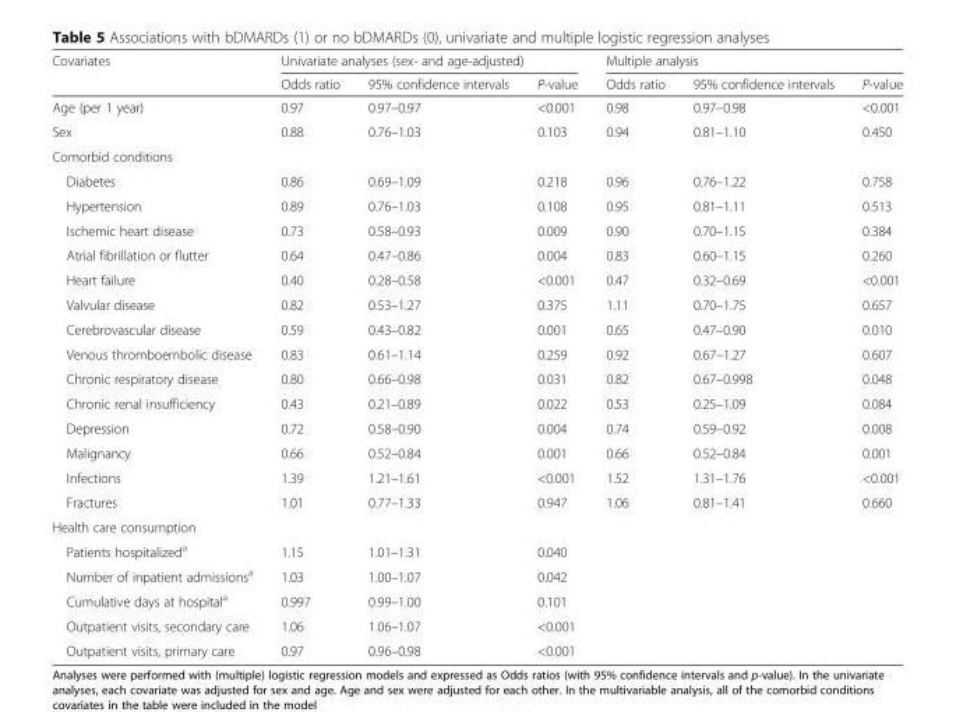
<table><thead><tr><td rowspan="2">Covariates</td><td colspan="3">Univariate analyses (sex- and age-adjusted)</td><td colspan="3">Multiple analysis</td></tr><tr><td>Odds ratio</td><td>95% confidence intervals</td><td>P-value</td><td>Odds ratio</td><td>95% confidence intervals</td><td>P-value</td></tr></thead><tbody><tr><td>Age (per 1 year)</td><td>0.97</td><td>0.97–0.97</td><td>&lt;0.001</td><td>0.98</td><td>0.97–0.98</td><td>&lt;0.001</td></tr><tr><td>Sex</td><td>0.88</td><td>0.76–1.03</td><td>0.103</td><td>0.94</td><td>0.81–1.10</td><td>0.450</td></tr><tr><td colspan="7">Comorbid conditions</td></tr><tr><td>Diabetes</td><td>0.86</td><td>0.69–1.09</td><td>0.218</td><td>0.96</td><td>0.76–1.22</td><td>0.758</td></tr><tr><td>Hypertension</td><td>0.89</td><td>0.76–1.03</td><td>0.108</td><td>0.95</td><td>0.81–1.11</td><td>0.513</td></tr><tr><td>Ischemic heart disease</td><td>0.73</td><td>0.58–0.93</td><td>0.009</td><td>0.90</td><td>0.70–1.15</td><td>0.384</td></tr><tr><td>Atrial fibrillation or flutter</td><td>0.64</td><td>0.47–0.86</td><td>0.004</td><td>0.83</td><td>0.60–1.15</td><td>0.260</td></tr><tr><td>Heart failure</td><td>0.40</td><td>0.28–0.58</td><td>&lt;0.001</td><td>0.47</td><td>0.32–0.69</td><td>&lt;0.001</td></tr><tr><td>Valvular disease</td><td>0.82</td><td>0.53–1.27</td><td>0.375</td><td>1.11</td><td>0.70–1.75</td><td>0.657</td></tr><tr><td>Cerebrovascular disease</td><td>0.59</td><td>0.43–0.82</td><td>0.001</td><td>0.65</td><td>0.47–0.90</td><td>0.010</td></tr><tr><td>Venous thromboembolic disease</td><td>0.83</td><td>0.61–1.14</td><td>0.259</td><td>0.92</td><td>0.67–1.27</td><td>0.607</td></tr><tr><td>Chronic respiratory disease</td><td>0.80</td><td>0.66–0.98</td><td>0.031</td><td>0.82</td><td>0.67–0.998</td><td>0.048</td></tr><tr><td>Chronic renal insufficiency</td><td>0.43</td><td>0.21–0.89</td><td>0.022</td><td>0.53</td><td>0.25–1.09</td><td>0.084</td></tr><tr><td>Depression</td><td>0.72</td><td>0.58–0.90</td><td>0.004</td><td>0.74</td><td>0.59–0.92</td><td>0.008</td></tr><tr><td>Malignancy</td><td>0.66</td><td>0.52–0.84</td><td>0.001</td><td>0.66</td><td>0.52–0.84</td><td>0.001</td></tr><tr><td>Infections</td><td>1.39</td><td>1.21–1.61</td><td>&lt;0.001</td><td>1.52</td><td>1.31–1.76</td><td>&lt;0.001</td></tr><tr><td>Fractures</td><td>1.01</td><td>0.77–1.33</td><td>0.947</td><td>1.06</td><td>0.81–1.41</td><td>0.660</td></tr><tr><td colspan="7">Health care consumption</td></tr><tr><td>Patients hospitalized<sup>a</sup></td><td>1.15</td><td>1.01–1.31</td><td>0.040</td><td></td><td></td><td></td></tr><tr><td>Number of inpatient admissions<sup>a</sup></td><td>1.03</td><td>1.00–1.07</td><td>0.042</td><td></td><td></td><td></td></tr><tr><td>Cumulative days at hospital<sup>a</sup></td><td>0.997</td><td>0.99–1.00</td><td>0.101</td><td></td><td></td><td></td></tr><tr><td>Outpatient visits, secondary care</td><td>1.06</td><td>1.06–1.07</td><td>&lt;0.001</td><td></td><td></td><td></td></tr><tr><td>Outpatient visits, primary care</td><td>0.97</td><td>0.96–0.98</td><td>&lt;0.001</td><td></td><td></td><td></td></tr></tbody></table>